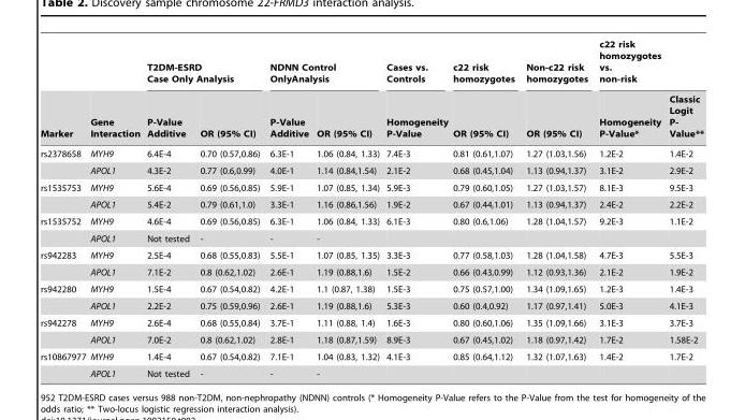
<table><thead><tr><td rowspan="2">Marker</td><td rowspan="2">Gene Interaction</td><td colspan="2">T2DM-ESRD Case Only Analysis</td><td colspan="2">NDNN Control OnlyAnalysis</td><td rowspan="2">Cases vs. Controls Homogeneity P-Value</td><td rowspan="2">c22 risk homozygotes OR (95% CI)</td><td rowspan="2">Non-c22 risk homozygotes OR (95% CI)</td><td colspan="2">c22 risk homozygotes vs. non-risk</td></tr><tr><td>P-Value Additive</td><td>OR (95% CI)</td><td>P-Value Additive</td><td>OR (95% CI)</td><td>Homogeneity P-Value*</td><td>Classic Logit P- Value**</td></tr></thead><tbody><tr><td rowspan="2">rs2378658</td><td>MYH9</td><td>6.4E-4</td><td>0.70 (0.57,0.86)</td><td>6.3E-1</td><td>1.06 (0.84, 1.33)</td><td>7.4E-3</td><td>0.81 (0.61,1.07)</td><td>1.27 (1.03,1.56)</td><td>1.2E-2</td><td>1.4E-2</td></tr><tr><td>APOL1</td><td>4.3E-2</td><td>0.77 (0.6,0.99)</td><td>4.0E-1</td><td>1.14 (0.84,1.54)</td><td>2.1E-2</td><td>0.68 (0.45,1.04)</td><td>1.13 (0.94,1.37)</td><td>3.1E-2</td><td>2.9E-2</td></tr><tr><td rowspan="2">rs1535753</td><td>MYH9</td><td>5.6E-4</td><td>0.69 (0.56,0.85)</td><td>5.9E-1</td><td>1.07 (0.85, 1.34)</td><td>5.9E-3</td><td>0.79 (0.60,1.05)</td><td>1.27 (1.03,1.57)</td><td>8.1E-3</td><td>9.5E-3</td></tr><tr><td>APOL1</td><td>5.4E-2</td><td>0.79 (0.61,1.0)</td><td>3.3E-1</td><td>1.16 (0.86,1.56)</td><td>1.9E-2</td><td>0.67 (0.44,1.01)</td><td>1.13 (0.94,1.37)</td><td>2.4E-2</td><td>2.2E-2</td></tr><tr><td rowspan="2">rs1535752</td><td>MYH9</td><td>4.6E-4</td><td>0.69 (0.56,0.85)</td><td>6.3E-1</td><td>1.06 (0.84, 1.33)</td><td>6.1E-3</td><td>0.80 (0.6,1.06)</td><td>1.28 (1.04,1.57)</td><td>9.2E-3</td><td>1.1E-2</td></tr><tr><td>APOL1</td><td>Not tested</td><td>-</td><td>-</td><td>-</td><td></td><td></td><td></td><td></td><td></td></tr><tr><td rowspan="2">rs942283</td><td>MYH9</td><td>2.5E-4</td><td>0.68 (0.55,0.83)</td><td>5.5E-1</td><td>1.07 (0.85, 1.35)</td><td>3.3E-3</td><td>0.77 (0.58,1.03)</td><td>1.28 (1.04,1.58)</td><td>4.7E-3</td><td>5.5E-3</td></tr><tr><td>APOL1</td><td>7.1E-2</td><td>0.8 (0.62,1.02)</td><td>2.6E-1</td><td>1.19 (0.88,1.6)</td><td>1.5E-2</td><td>0.66 (0.43,0.99)</td><td>1.12 (0.93,1.36)</td><td>2.1E-2</td><td>1.9E-2</td></tr><tr><td rowspan="2">rs942280</td><td>MYH9</td><td>1.5E-4</td><td>0.67 (0.54,0.82)</td><td>4.2E-1</td><td>1.1 (0.87, 1.38)</td><td>1.5E-3</td><td>0.75 (0.57,1.00)</td><td>1.34 (1.09,1.65)</td><td>1.2E-3</td><td>1.4E-3</td></tr><tr><td>APOL1</td><td>2.2E-2</td><td>0.75 (0.59,0.96)</td><td>2.6E-1</td><td>1.19 (0.88,1.6)</td><td>5.3E-3</td><td>0.60 (0.4,0.92)</td><td>1.17 (0.97,1.41)</td><td>5.0E-3</td><td>4.1E-3</td></tr><tr><td rowspan="2">rs942278</td><td>MYH9</td><td>2.6E-4</td><td>0.68 (0.55,0.84)</td><td>3.7E-1</td><td>1.11 (0.88, 1.4)</td><td>1.6E-3</td><td>0.80 (0.60,1.06)</td><td>1.35 (1.09,1.66)</td><td>3.1E-3</td><td>3.7E-3</td></tr><tr><td>APOL1</td><td>7.0E-2</td><td>0.8 (0.62,1.02)</td><td>2.8E-1</td><td>1.18 (0.87,1.59)</td><td>8.9E-3</td><td>0.67 (0.45,1.02)</td><td>1.18 (0.97,1.42)</td><td>1.7E-2</td><td>1.58E-2</td></tr><tr><td rowspan="2">rs10867977</td><td>MYH9</td><td>1.4E-4</td><td>0.67 (0.54,0.82)</td><td>7.1E-1</td><td>1.04 (0.83, 1.32)</td><td>4.1E-3</td><td>0.85 (0.64,1.12)</td><td>1.32 (1.07,1.63)</td><td>1.4E-2</td><td>1.7E-2</td></tr><tr><td>APOL1</td><td>Not tested</td><td>-</td><td>-</td><td>-</td><td></td><td></td><td></td><td></td><td></td></tr></tbody></table>